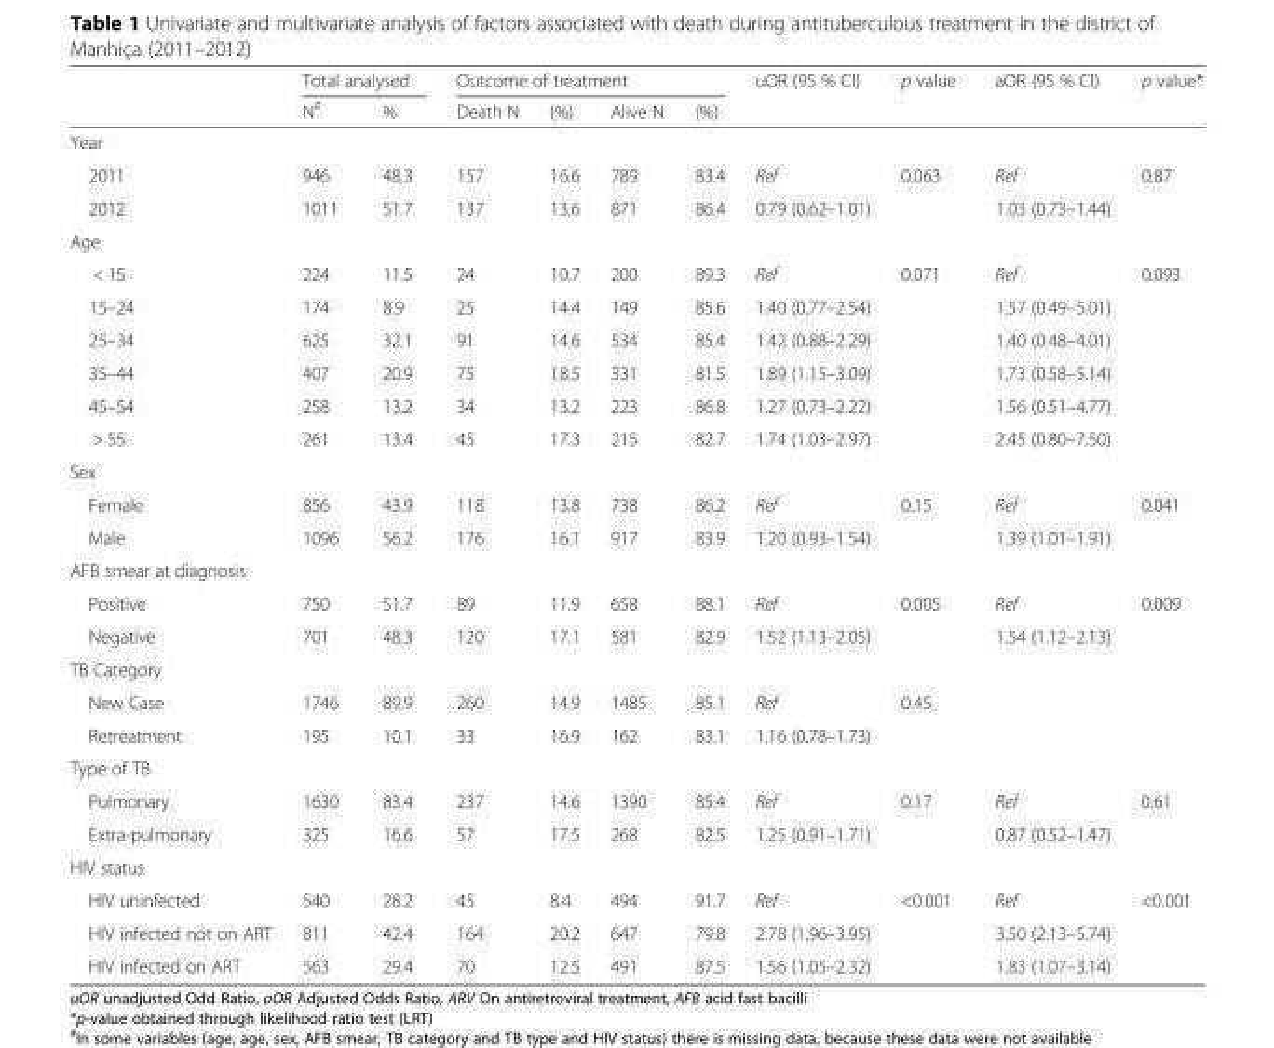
<table><thead><tr><td rowspan="2"></td><td colspan="2">Total analysed</td><td colspan="4">Outcome of treatment</td><td rowspan="2">uOR (95 % CI)</td><td rowspan="2">p value</td><td rowspan="2">aOR (95 % CI)</td><td rowspan="2">p value*</td></tr><tr><td>N<sup>#</sup></td><td>%</td><td>Death N</td><td>(%)</td><td>Alive N</td><td>(%)</td></tr></thead><tbody><tr><td colspan="11">Year</td></tr><tr><td>2011</td><td>946</td><td>48.3</td><td>157</td><td>16.6</td><td>789</td><td>83.4</td><td>Ref</td><td rowspan="2">0.063</td><td>Ref</td><td rowspan="2">0.87</td></tr><tr><td>2012</td><td>1011</td><td>51.7</td><td>137</td><td>13.6</td><td>871</td><td>86.4</td><td>0.79 (0.62–1.01)</td><td>1.03 (0.73–1.44)</td></tr><tr><td colspan="11">Age</td></tr><tr><td>&lt; 15</td><td>224</td><td>11.5</td><td>24</td><td>10.7</td><td>200</td><td>89.3</td><td>Ref</td><td rowspan="6">0.071</td><td>Ref</td><td rowspan="6">0.093</td></tr><tr><td>15–24</td><td>174</td><td>8.9</td><td>25</td><td>14.4</td><td>149</td><td>85.6</td><td>1.40 (0.77–2.54)</td><td>1.57 (0.49–5.01)</td></tr><tr><td>25–34</td><td>625</td><td>32.1</td><td>91</td><td>14.6</td><td>534</td><td>85.4</td><td>1.42 (0.88–2.29)</td><td>1.40 (0.48–4.01)</td></tr><tr><td>35–44</td><td>407</td><td>20.9</td><td>75</td><td>18.5</td><td>331</td><td>81.5</td><td>1.89 (1.15–3.09)</td><td>1.73 (0.58–5.14)</td></tr><tr><td>45–54</td><td>258</td><td>13.2</td><td>34</td><td>13.2</td><td>223</td><td>86.8</td><td>1.27 (0.73–2.22)</td><td>1.56 (0.51–4.77)</td></tr><tr><td>&gt; 55</td><td>261</td><td>13.4</td><td>45</td><td>17.3</td><td>215</td><td>82.7</td><td>1.74 (1.03–2.97)</td><td>2.45 (0.80–7.50)</td></tr><tr><td colspan="11">Sex</td></tr><tr><td>Female</td><td>856</td><td>43.9</td><td>118</td><td>13.8</td><td>738</td><td>86.2</td><td>Ref</td><td rowspan="2">0.15</td><td>Ref</td><td rowspan="2">0.041</td></tr><tr><td>Male</td><td>1096</td><td>56.2</td><td>176</td><td>16.1</td><td>917</td><td>83.9</td><td>1.20 (0.93–1.54)</td><td>1.39 (1.01–1.91)</td></tr><tr><td colspan="11">AFB smear at diagnosis</td></tr><tr><td>Positive</td><td>750</td><td>51.7</td><td>89</td><td>11.9</td><td>658</td><td>88.1</td><td>Ref</td><td rowspan="2">0.005</td><td>Ref</td><td rowspan="2">0.009</td></tr><tr><td>Negative</td><td>701</td><td>48.3</td><td>120</td><td>17.1</td><td>581</td><td>82.9</td><td>1.52 (1.13–2.05)</td><td>1.54 (1.12–2.13)</td></tr><tr><td colspan="11">TB Category</td></tr><tr><td>New Case</td><td>1746</td><td>89.9</td><td>260</td><td>14.9</td><td>1485</td><td>85.1</td><td>Ref</td><td rowspan="2">0.45</td><td></td><td></td></tr><tr><td>Retreatment</td><td>195</td><td>10.1</td><td>33</td><td>16.9</td><td>162</td><td>83.1</td><td>1.16 (0.78–1.73)</td><td></td><td></td></tr><tr><td colspan="11">Type of TB</td></tr><tr><td>Pulmonary</td><td>1630</td><td>83.4</td><td>237</td><td>14.6</td><td>1390</td><td>85.4</td><td>Ref</td><td rowspan="2">0.17</td><td>Ref</td><td rowspan="2">0.61</td></tr><tr><td>Extra-pulmonary</td><td>325</td><td>16.6</td><td>57</td><td>17.5</td><td>268</td><td>82.5</td><td>1.25 (0.91–1.71)</td><td>0.87 (0.52–1.47)</td></tr><tr><td colspan="11">HIV status</td></tr><tr><td>HIV uninfected</td><td>540</td><td>28.2</td><td>45</td><td>8.4</td><td>494</td><td>91.7</td><td>Ref</td><td rowspan="3">&lt;0.001</td><td>Ref</td><td rowspan="3">&lt;0.001</td></tr><tr><td>HIV infected not on ART</td><td>811</td><td>42.4</td><td>164</td><td>20.2</td><td>647</td><td>79.8</td><td>2.78 (1.96–3.95)</td><td>3.50 (2.13–5.74)</td></tr><tr><td>HIV infected on ART</td><td>563</td><td>29.4</td><td>70</td><td>12.5</td><td>491</td><td>87.5</td><td>1.56 (1.05–2.32)</td><td>1.83 (1.07–3.14)</td></tr></tbody></table>